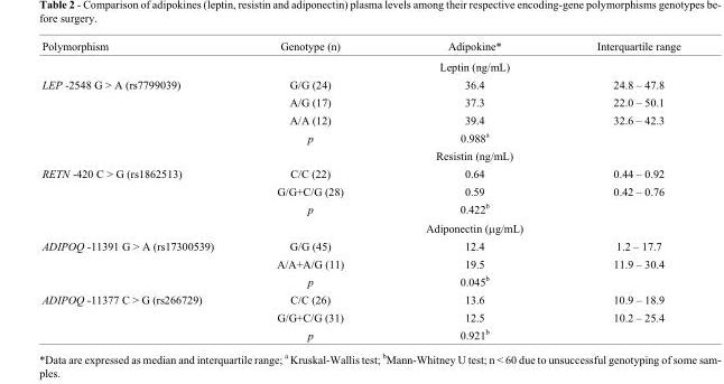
<table><thead><tr><td>Polymorphism</td><td>Genotype (n)</td><td>Adipokine*</td><td>Interquartile range</td></tr></thead><tbody><tr><td></td><td></td><td>Leptin (ng/mL)</td><td></td></tr><tr><td rowspan="5">LEP -2548 G &gt; A (rs7799039)</td><td>G/G (24)</td><td>36.4</td><td>24.8 – 47.8</td></tr><tr><td>A/G (17)</td><td>37.3</td><td>22.0 – 50.1</td></tr><tr><td>A/A (12)</td><td>39.4</td><td>32.6 – 42.3</td></tr><tr><td>p</td><td>0.988<sup>a</sup></td><td></td></tr><tr><td></td><td>Resistin (ng/mL)</td><td></td></tr><tr><td rowspan="4">RETN -420 C &gt; G (rs1862513)</td><td>C/C (22)</td><td>0.64</td><td>0.44 – 0.92</td></tr><tr><td>G/G+C/G (28)</td><td>0.59</td><td>0.42 – 0.76</td></tr><tr><td>p</td><td>0.422<sup>b</sup></td><td></td></tr><tr><td></td><td>Adiponectin (μg/mL)</td><td></td></tr><tr><td rowspan="3">ADIPOQ -11391 G &gt; A (rs17300539)</td><td>G/G (45)</td><td>12.4</td><td>1.2 – 17.7</td></tr><tr><td>A/A+A/G (11)</td><td>19.5</td><td>11.9 – 30.4</td></tr><tr><td>p</td><td>0.045<sup>b</sup></td><td></td></tr><tr><td rowspan="3">ADIPOQ -11377 C &gt; G (rs266729)</td><td>C/C (26)</td><td>13.6</td><td>10.9 – 18.9</td></tr><tr><td>G/G+C/G (31)</td><td>12.5</td><td>10.2 – 25.4</td></tr><tr><td>p</td><td>0.921<sup>b</sup></td><td></td></tr></tbody></table>